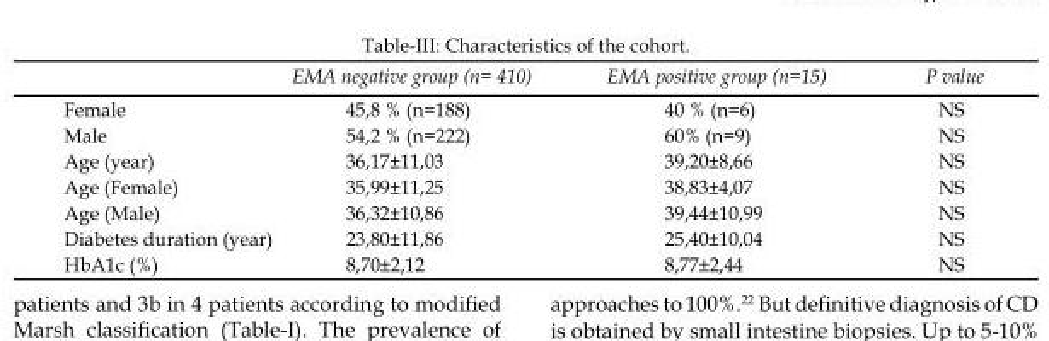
<table><thead><tr><td></td><td>EMA negative group (n= 410)</td><td>EMA positive group (n=15)</td><td>P value</td></tr></thead><tbody><tr><td>Female</td><td>45,8 % (n=188)</td><td>40 % (n=6)</td><td>NS</td></tr><tr><td>Male</td><td>54,2 % (n=222)</td><td>60% (n=9)</td><td>NS</td></tr><tr><td>Age (year)</td><td>36,17±11,03</td><td>39,20±8,66</td><td>NS</td></tr><tr><td>Age (Female)</td><td>35,99±11,25</td><td>38,83±4,07</td><td>NS</td></tr><tr><td>Age (Male)</td><td>36,32±10,86</td><td>39,44±10,99</td><td>NS</td></tr><tr><td>Diabetes duration (year)</td><td>23,80±11,86</td><td>25,40±10,04</td><td>NS</td></tr><tr><td>HbA1c (%)</td><td>8,70±2,12</td><td>8,77±2,44</td><td>NS</td></tr></tbody></table>